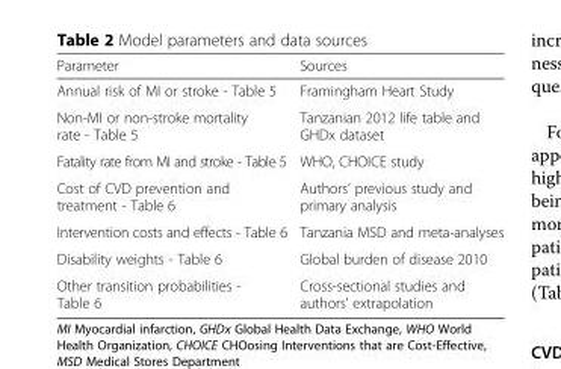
<table><thead><tr><td>Parameter</td><td>Sources</td></tr></thead><tbody><tr><td>Annual risk of MI or stroke - Table 5</td><td>Framingham Heart Study</td></tr><tr><td>Non-MI or non-stroke mortality rate - Table 5</td><td>Tanzanian 2012 life table and GHDx dataset</td></tr><tr><td>Fatality rate from MI and stroke - Table 5</td><td>WHO, CHOICE study</td></tr><tr><td>Cost of CVD prevention and treatment - Table 6</td><td>Authors’ previous study and primary analysis</td></tr><tr><td>Intervention costs and effects - Table 6</td><td>Tanzania MSD and meta-analyses</td></tr><tr><td>Disability weights - Table 6</td><td>Global burden of disease 2010</td></tr><tr><td>Other transition probabilities - Table 6</td><td>Cross-sectional studies and authors’ extrapolation</td></tr></tbody></table>